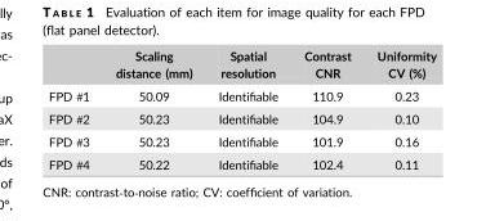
<table><thead><tr><td></td><td>Scaling distance (mm)</td><td>Spatial resolution</td><td>Contrast CNR</td><td>Uniformity CV (%)</td></tr></thead><tbody><tr><td>FPD #1</td><td>50.09</td><td>Identifiable</td><td>110.9</td><td>0.23</td></tr><tr><td>FPD #2</td><td>50.23</td><td>Identifiable</td><td>104.9</td><td>0.10</td></tr><tr><td>FPD #3</td><td>50.23</td><td>Identifiable</td><td>101.9</td><td>0.16</td></tr><tr><td>FPD #4</td><td>50.22</td><td>Identifiable</td><td>102.4</td><td>0.11</td></tr></tbody></table>